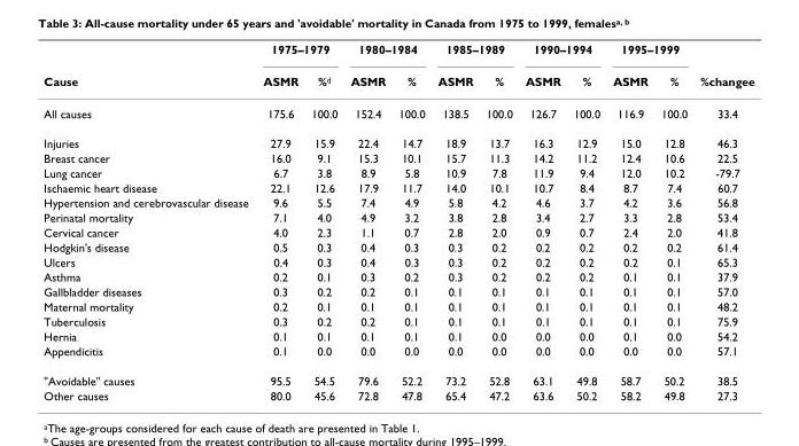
<table><thead><tr><td rowspan="2">Cause</td><td colspan="2">1975–1979</td><td colspan="2">1980–1984</td><td colspan="2">1985–1989</td><td colspan="2">1990–1994</td><td colspan="2">1995–1999</td><td rowspan="2">%changee</td></tr><tr><td>ASMR</td><td>%d</td><td>ASMR</td><td>%</td><td>ASMR</td><td>%</td><td>ASMR</td><td>%</td><td>ASMR</td><td>%</td></tr></thead><tbody><tr><td>All causes</td><td>175.6</td><td>100.0</td><td>152.4</td><td>100.0</td><td>138.5</td><td>100.0</td><td>126.7</td><td>100.0</td><td>116.9</td><td>100.0</td><td>33.4</td></tr><tr><td>Injuries</td><td>27.9</td><td>15.9</td><td>22.4</td><td>14.7</td><td>18.9</td><td>13.7</td><td>16.3</td><td>12.9</td><td>15.0</td><td>12.8</td><td>46.3</td></tr><tr><td>Breast cancer</td><td>16.0</td><td>9.1</td><td>15.3</td><td>10.1</td><td>15.7</td><td>11.3</td><td>14.2</td><td>11.2</td><td>12.4</td><td>10.6</td><td>22.5</td></tr><tr><td>Lung cancer</td><td>6.7</td><td>3.8</td><td>8.9</td><td>5.8</td><td>10.9</td><td>7.8</td><td>11.9</td><td>9.4</td><td>12.0</td><td>10.2</td><td>-79.7</td></tr><tr><td>Ischaemic heart disease</td><td>22.1</td><td>12.6</td><td>17.9</td><td>11.7</td><td>14.0</td><td>10.1</td><td>10.7</td><td>8.4</td><td>8.7</td><td>7.4</td><td>60.7</td></tr><tr><td>Hypertension and cerebrovascular disease</td><td>9.6</td><td>5.5</td><td>7.4</td><td>4.9</td><td>5.8</td><td>4.2</td><td>4.6</td><td>3.7</td><td>4.2</td><td>3.6</td><td>56.8</td></tr><tr><td>Perinatal mortality</td><td>7.1</td><td>4.0</td><td>4.9</td><td>3.2</td><td>3.8</td><td>2.8</td><td>3.4</td><td>2.7</td><td>3.3</td><td>2.8</td><td>53.4</td></tr><tr><td>Cervical cancer</td><td>4.0</td><td>2.3</td><td>1.1</td><td>0.7</td><td>2.8</td><td>2.0</td><td>0.9</td><td>0.7</td><td>2.4</td><td>2.0</td><td>41.8</td></tr><tr><td>Hodgkin&#x27;s disease</td><td>0.5</td><td>0.3</td><td>0.4</td><td>0.3</td><td>0.3</td><td>0.2</td><td>0.2</td><td>0.2</td><td>0.2</td><td>0.2</td><td>61.4</td></tr><tr><td>Ulcers</td><td>0.4</td><td>0.3</td><td>0.4</td><td>0.3</td><td>0.3</td><td>0.2</td><td>0.2</td><td>0.2</td><td>0.2</td><td>0.1</td><td>65.3</td></tr><tr><td>Asthma</td><td>0.2</td><td>0.1</td><td>0.3</td><td>0.2</td><td>0.3</td><td>0.2</td><td>0.2</td><td>0.2</td><td>0.1</td><td>0.1</td><td>37.9</td></tr><tr><td>Gallbladder diseases</td><td>0.3</td><td>0.2</td><td>0.2</td><td>0.1</td><td>0.1</td><td>0.1</td><td>0.1</td><td>0.1</td><td>0.1</td><td>0.1</td><td>57.0</td></tr><tr><td>Maternal mortality</td><td>0.2</td><td>0.1</td><td>0.1</td><td>0.1</td><td>0.1</td><td>0.1</td><td>0.1</td><td>0.1</td><td>0.1</td><td>0.1</td><td>48.2</td></tr><tr><td>Tuberculosis</td><td>0.3</td><td>0.2</td><td>0.2</td><td>0.1</td><td>0.1</td><td>0.1</td><td>0.1</td><td>0.1</td><td>0.1</td><td>0.1</td><td>75.9</td></tr><tr><td>Hernia</td><td>0.1</td><td>0.1</td><td>0.1</td><td>0.1</td><td>0.1</td><td>0.0</td><td>0.0</td><td>0.0</td><td>0.1</td><td>0.0</td><td>54.2</td></tr><tr><td>Appendicitis</td><td>0.1</td><td>0.0</td><td>0.0</td><td>0.0</td><td>0.0</td><td>0.0</td><td>0.0</td><td>0.0</td><td>0.0</td><td>0.0</td><td>57.1</td></tr><tr><td>&quot;Avoidable&quot; causes</td><td>95.5</td><td>54.5</td><td>79.6</td><td>52.2</td><td>73.2</td><td>52.8</td><td>63.1</td><td>49.8</td><td>58.7</td><td>50.2</td><td>38.5</td></tr><tr><td>Other causes</td><td>80.0</td><td>45.6</td><td>72.8</td><td>47.8</td><td>65.4</td><td>47.2</td><td>63.6</td><td>50.2</td><td>58.2</td><td>49.8</td><td>27.3</td></tr></tbody></table>